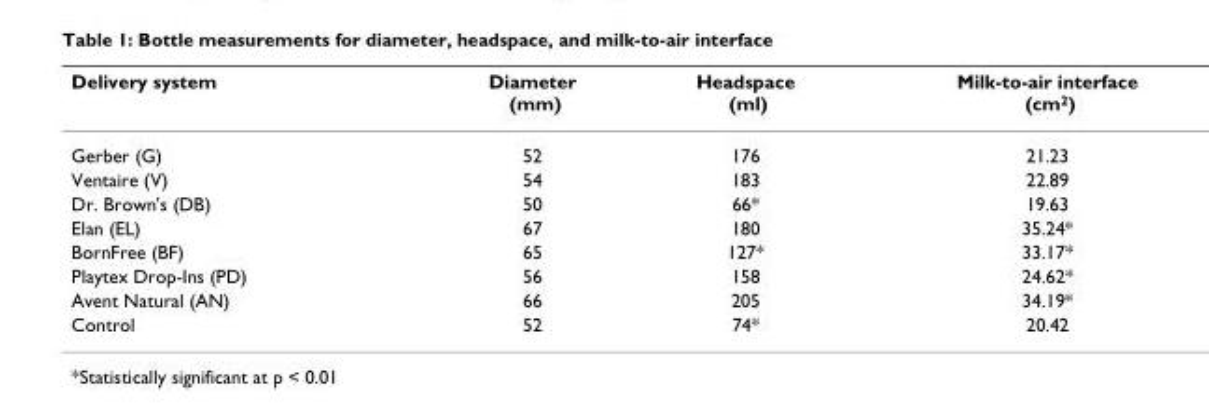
<table><thead><tr><td>Delivery system</td><td>Diameter (mm)</td><td>Headspace (ml)</td><td>Milk-to-air interface (cm<sup>2</sup>)</td></tr></thead><tbody><tr><td>Gerber (G)</td><td>52</td><td>176</td><td>21.23</td></tr><tr><td>Ventaire (V)</td><td>54</td><td>183</td><td>22.89</td></tr><tr><td>Dr. Brown&#x27;s (DB)</td><td>50</td><td>66*</td><td>19.63</td></tr><tr><td>Elan (EL)</td><td>67</td><td>180</td><td>35.24*</td></tr><tr><td>BornFree (BF)</td><td>65</td><td>127*</td><td>33.17*</td></tr><tr><td>Playtex Drop-Ins (PD)</td><td>56</td><td>158</td><td>24.62*</td></tr><tr><td>Avent Natural (AN)</td><td>66</td><td>205</td><td>34.19*</td></tr><tr><td>Control</td><td>52</td><td>74*</td><td>20.42</td></tr></tbody></table>